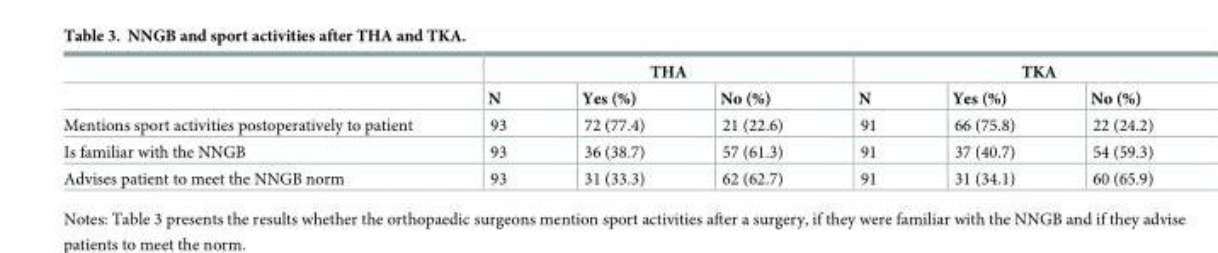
<table><thead><tr><td rowspan="2"></td><td colspan="3">THA</td><td colspan="3">TKA</td></tr><tr><td>N</td><td>Yes (%)</td><td>No (%)</td><td>N</td><td>Yes (%)</td><td>No (%)</td></tr></thead><tbody><tr><td>Mentions sport activities postoperatively to patient</td><td>93</td><td>72 (77.4)</td><td>21 (22.6)</td><td>91</td><td>66 (75.8)</td><td>22 (24.2)</td></tr><tr><td>Is familiar with the NNGB</td><td>93</td><td>36 (38.7)</td><td>57 (61.3)</td><td>91</td><td>37 (40.7)</td><td>54 (59.3)</td></tr><tr><td>Advises patient to meet the NNGB norm</td><td>93</td><td>31 (33.3)</td><td>62 (62.7)</td><td>91</td><td>31 (34.1)</td><td>60 (65.9)</td></tr></tbody></table>